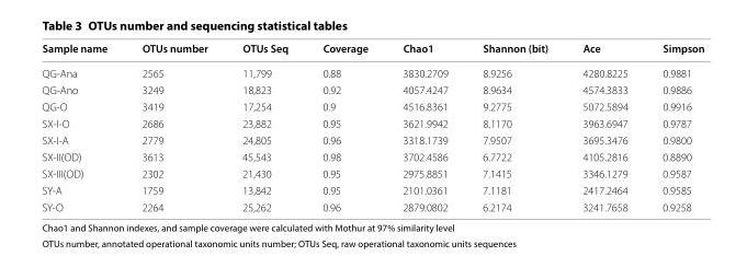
<table><thead><tr><td>Sample name</td><td>OTUs number</td><td>OTUs Seq</td><td>Coverage</td><td>Chao1</td><td>Shannon (bit)</td><td>Ace</td><td>Simpson</td></tr></thead><tbody><tr><td>QG-Ana</td><td>2565</td><td>11,799</td><td>0.88</td><td>3830.2709</td><td>8.9256</td><td>4280.8225</td><td>0.9881</td></tr><tr><td>QG-Ano</td><td>3249</td><td>18,823</td><td>0.92</td><td>4057.4247</td><td>8.9634</td><td>4574.3833</td><td>0.9886</td></tr><tr><td>QG-O</td><td>3419</td><td>17,254</td><td>0.9</td><td>4516.8361</td><td>9.2775</td><td>5072.5894</td><td>0.9916</td></tr><tr><td>SX-I-O</td><td>2686</td><td>23,882</td><td>0.95</td><td>3621.9942</td><td>8.1170</td><td>3963.6947</td><td>0.9787</td></tr><tr><td>SX-I-A</td><td>2779</td><td>24,805</td><td>0.96</td><td>3318.1739</td><td>7.9507</td><td>3695.3476</td><td>0.9800</td></tr><tr><td>SX-II(OD)</td><td>3613</td><td>45,543</td><td>0.98</td><td>3702.4586</td><td>6.7722</td><td>4105.2816</td><td>0.8890</td></tr><tr><td>SX-III(OD)</td><td>2302</td><td>21,430</td><td>0.95</td><td>2975.8851</td><td>7.1415</td><td>3346.1279</td><td>0.9587</td></tr><tr><td>SY-A</td><td>1759</td><td>13,842</td><td>0.95</td><td>2101.0361</td><td>7.1181</td><td>2417.2464</td><td>0.9585</td></tr><tr><td>SY-O</td><td>2264</td><td>25,262</td><td>0.96</td><td>2879.0802</td><td>6.2174</td><td>3241.7658</td><td>0.9258</td></tr></tbody></table>